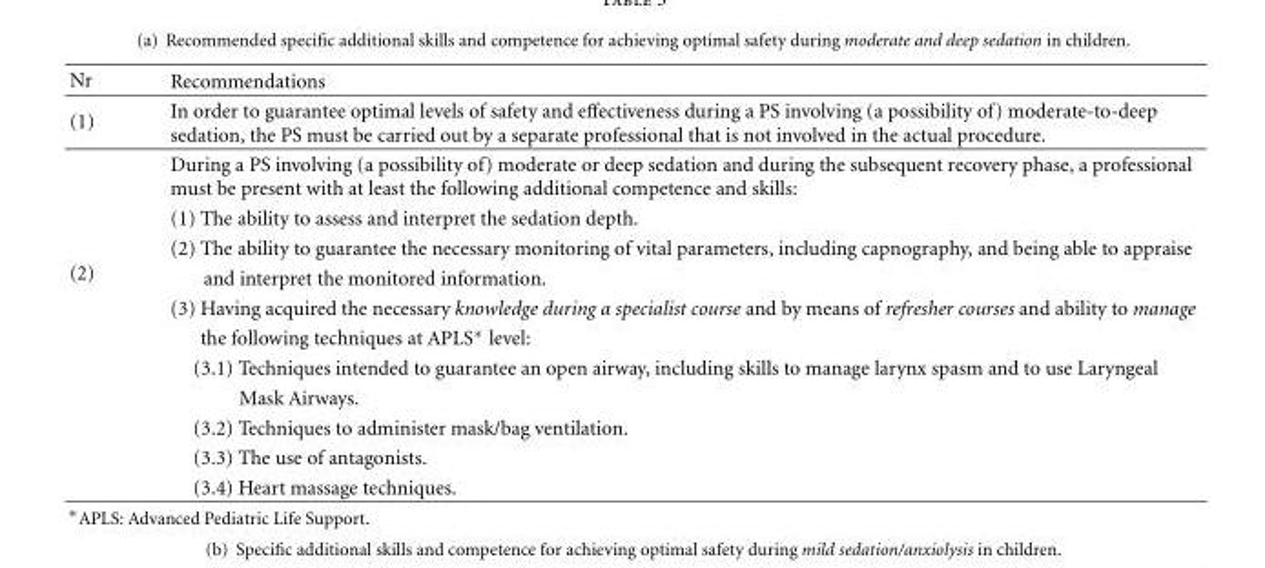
<table><thead><tr><td>Nr</td><td>Recommendations</td></tr></thead><tbody><tr><td>(1)</td><td>In order to guarantee optimal levels of safety and effectiveness during a PS involving (a possibility of) moderate-to-deep sedation, the PS must be carried out by a separate professional that is not involved in the actual procedure.</td></tr><tr><td rowspan="11">(2)</td><td>During a PS involving (a possibility of) moderate or deep sedation and during the subsequent recovery phase, a professional must be present with at least the following additional competence and skills:</td></tr><tr><td>(1) The ability to assess and interpret the sedation depth.</td></tr><tr><td>(2) The ability to guarantee the necessary monitoring of vital parameters, including capnography, and being able to appraise</td></tr><tr><td>and interpret the monitored information.</td></tr><tr><td>(3) Having acquired the necessary knowledge during a specialist course and by means of refresher courses and ability to manage</td></tr><tr><td>the following techniques at APLS∗ level:</td></tr><tr><td>(3.1) Techniques intended to guarantee an open airway, including skills to manage larynx spasm and to use Laryngeal</td></tr><tr><td>Mask Airways.</td></tr><tr><td>(3.2) Techniques to administer mask/bag ventilation.</td></tr><tr><td>(3.3) The use of antagonists.</td></tr><tr><td>(3.4) Heart massage techniques.</td></tr></tbody></table>